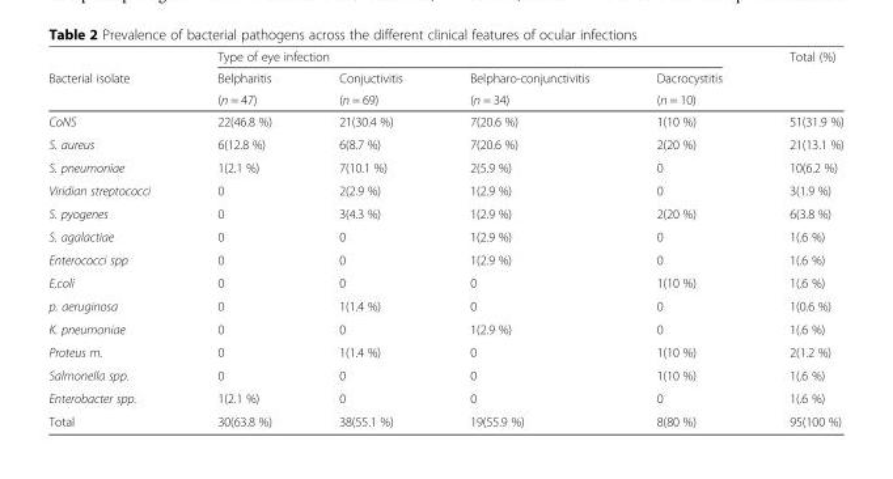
<table><thead><tr><td rowspan="3">Bacterial isolate</td><td colspan="4">Type of eye infection</td><td rowspan="3">Total (%)</td></tr><tr><td rowspan="2">Belpharitis (n = 47)</td><td rowspan="2">Conjuctivitis (n = 69)</td><td rowspan="2">Belpharo-conjunctivitis (n = 34)</td><td rowspan="2">Dacrocystitis (n = 10)</td></tr><tr></tr></thead><tbody><tr><td>CoNS</td><td>22(46.8 %)</td><td>21(30.4 %)</td><td>7(20.6 %)</td><td>1(10 %)</td><td>51(31.9 %)</td></tr><tr><td>S. aureus</td><td>6(12.8 %)</td><td>6(8.7 %)</td><td>7(20.6 %)</td><td>2(20 %)</td><td>21(13.1 %)</td></tr><tr><td>S. pneumoniae</td><td>1(2.1 %)</td><td>7(10.1 %)</td><td>2(5.9 %)</td><td>0</td><td>10(6.2 %)</td></tr><tr><td>Viridian streptococci</td><td>0</td><td>2(2.9 %)</td><td>1(2.9 %)</td><td>0</td><td>3(1.9 %)</td></tr><tr><td>S. pyogenes</td><td>0</td><td>3(4.3 %)</td><td>1(2.9 %)</td><td>2(20 %)</td><td>6(3.8 %)</td></tr><tr><td>S. agalactiae</td><td>0</td><td>0</td><td>1(2.9 %)</td><td>0</td><td>1(.6 %)</td></tr><tr><td>Enterococci spp</td><td>0</td><td>0</td><td>1(2.9 %)</td><td>0</td><td>1(.6 %)</td></tr><tr><td>E.coli</td><td>0</td><td>0</td><td>0</td><td>1(10 %)</td><td>1(.6 %)</td></tr><tr><td>p. aeruginosa</td><td>0</td><td>1(1.4 %)</td><td>0</td><td>0</td><td>1(0.6 %)</td></tr><tr><td>K. pneumoniae</td><td>0</td><td>0</td><td>1(2.9 %)</td><td>0</td><td>1(.6 %)</td></tr><tr><td>Proteus m.</td><td>0</td><td>1(1.4 %)</td><td>0</td><td>1(10 %)</td><td>2(1.2 %)</td></tr><tr><td>Salmonella spp.</td><td>0</td><td>0</td><td>0</td><td>1(10 %)</td><td>1(.6 %)</td></tr><tr><td>Enterobacter spp.</td><td>1(2.1 %)</td><td>0</td><td>0</td><td>0</td><td>1(.6 %)</td></tr><tr><td>Total</td><td>30(63.8 %)</td><td>38(55.1 %)</td><td>19(55.9 %)</td><td>8(80 %)</td><td>95(100 %)</td></tr></tbody></table>